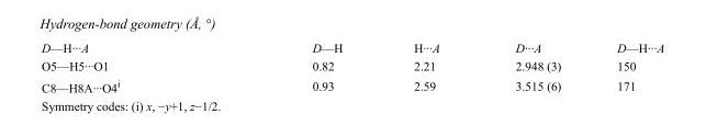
<table><tbody><tr><td>D—H···A</td><td>D—H</td><td>H···A</td><td>D···A</td><td>D—H···A</td></tr><tr><td>O5—H5···O1</td><td>0.82</td><td>2.21</td><td>2.948 (3)</td><td>150</td></tr><tr><td>C8—H8A···O4<sup>i</sup></td><td>0.93</td><td>2.59</td><td>3.515 (6)</td><td>171</td></tr></tbody></table>